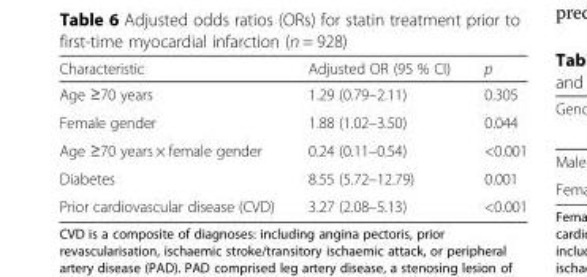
<table><thead><tr><td>Characteristic</td><td>Adjusted OR (95 % CI)</td><td>p</td></tr></thead><tbody><tr><td>Age ≥70 years</td><td>1.29 (0.79–2.11)</td><td>0.305</td></tr><tr><td>Female gender</td><td>1.88 (1.02–3.50)</td><td>0.044</td></tr><tr><td>Age ≥70 years × female gender</td><td>0.24 (0.11–0.54)</td><td>&lt;0.001</td></tr><tr><td>Diabetes</td><td>8.55 (5.72–12.79)</td><td>0.001</td></tr><tr><td>Prior cardiovascular disease (CVD)</td><td>3.27 (2.08–5.13)</td><td>&lt;0.001</td></tr></tbody></table>